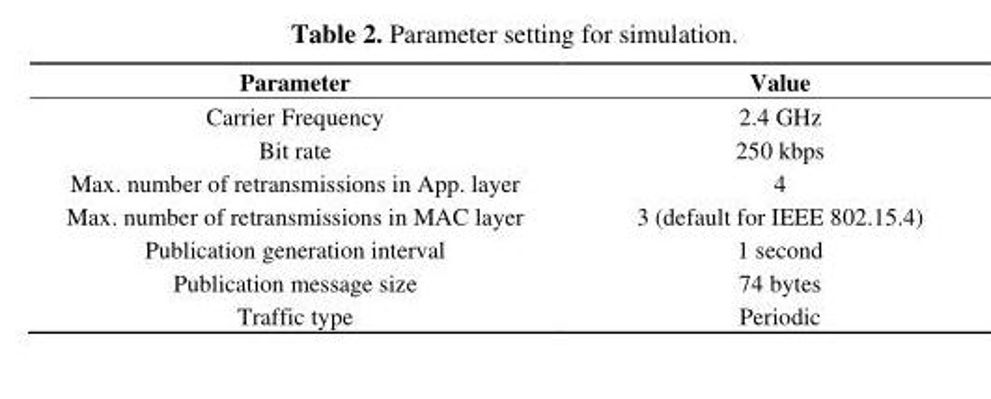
<table><thead><tr><td>Parameter</td><td>Value</td></tr></thead><tbody><tr><td>Carrier Frequency</td><td>2.4 GHz</td></tr><tr><td>Bit rate</td><td>250 kbps</td></tr><tr><td>Max. number of retransmissions in App. layer</td><td>4</td></tr><tr><td>Max. number of retransmissions in MAC layer</td><td>3 (default for IEEE 802.15.4)</td></tr><tr><td>Publication generation interval</td><td>1 second</td></tr><tr><td>Publication message size</td><td>74 bytes</td></tr><tr><td>Traffic type</td><td>Periodic</td></tr></tbody></table>